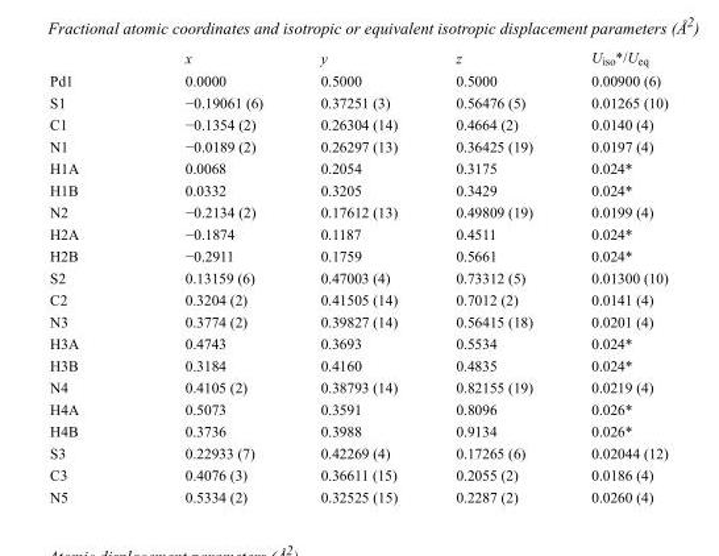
<table><thead><tr><td></td><td>x</td><td>y</td><td>z</td><td>U<sub>iso</sub>*/U<sub>eq</sub></td></tr></thead><tbody><tr><td>Pd1</td><td>0.0000</td><td>0.5000</td><td>0.5000</td><td>0.00900 (6)</td></tr><tr><td>S1</td><td>−0.19061 (6)</td><td>0.37251 (3)</td><td>0.56476 (5)</td><td>0.01265 (10)</td></tr><tr><td>C1</td><td>−0.1354 (2)</td><td>0.26304 (14)</td><td>0.4664 (2)</td><td>0.0140 (4)</td></tr><tr><td>N1</td><td>−0.0189 (2)</td><td>0.26297 (13)</td><td>0.36425 (19)</td><td>0.0197 (4)</td></tr><tr><td>H1A</td><td>0.0068</td><td>0.2054</td><td>0.3175</td><td>0.024*</td></tr><tr><td>H1B</td><td>0.0332</td><td>0.3205</td><td>0.3429</td><td>0.024*</td></tr><tr><td>N2</td><td>−0.2134 (2)</td><td>0.17612 (13)</td><td>0.49809 (19)</td><td>0.0199 (4)</td></tr><tr><td>H2A</td><td>−0.1874</td><td>0.1187</td><td>0.4511</td><td>0.024*</td></tr><tr><td>H2B</td><td>−0.2911</td><td>0.1759</td><td>0.5661</td><td>0.024*</td></tr><tr><td>S2</td><td>0.13159 (6)</td><td>0.47003 (4)</td><td>0.73312 (5)</td><td>0.01300 (10)</td></tr><tr><td>C2</td><td>0.3204 (2)</td><td>0.41505 (14)</td><td>0.7012 (2)</td><td>0.0141 (4)</td></tr><tr><td>N3</td><td>0.3774 (2)</td><td>0.39827 (14)</td><td>0.56415 (18)</td><td>0.0201 (4)</td></tr><tr><td>H3A</td><td>0.4743</td><td>0.3693</td><td>0.5534</td><td>0.024*</td></tr><tr><td>H3B</td><td>0.3184</td><td>0.4160</td><td>0.4835</td><td>0.024*</td></tr><tr><td>N4</td><td>0.4105 (2)</td><td>0.38793 (14)</td><td>0.82155 (19)</td><td>0.0219 (4)</td></tr><tr><td>H4A</td><td>0.5073</td><td>0.3591</td><td>0.8096</td><td>0.026*</td></tr><tr><td>H4B</td><td>0.3736</td><td>0.3988</td><td>0.9134</td><td>0.026*</td></tr><tr><td>S3</td><td>0.22933 (7)</td><td>0.42269 (4)</td><td>0.17265 (6)</td><td>0.02044 (12)</td></tr><tr><td>C3</td><td>0.4076 (3)</td><td>0.36611 (15)</td><td>0.2055 (2)</td><td>0.0186 (4)</td></tr><tr><td>N5</td><td>0.5334 (2)</td><td>0.32525 (15)</td><td>0.2287 (2)</td><td>0.0260 (4)</td></tr></tbody></table>